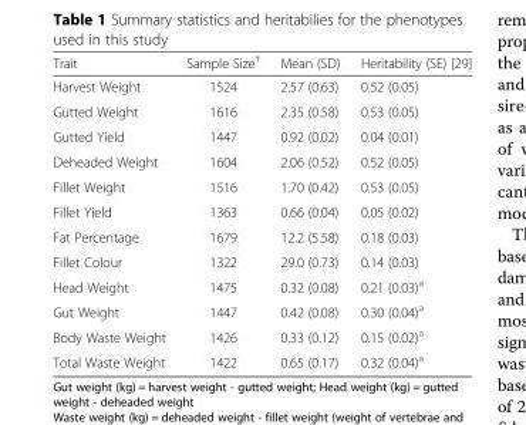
<table><thead><tr><td>Trait</td><td>Sample Size<sup>†</sup></td><td>Mean (SD)</td><td>Heritability (SE) [29]</td></tr></thead><tbody><tr><td>Harvest Weight</td><td>1524</td><td>2.57 (0.63)</td><td>0.52 (0.05)</td></tr><tr><td>Gutted Weight</td><td>1616</td><td>2.35 (0.58)</td><td>0.53 (0.05)</td></tr><tr><td>Gutted Yield</td><td>1447</td><td>0.92 (0.02)</td><td>0.04 (0.01)</td></tr><tr><td>Deheaded Weight</td><td>1604</td><td>2.06 (0.52)</td><td>0.52 (0.05)</td></tr><tr><td>Fillet Weight</td><td>1516</td><td>1.70 (0.42)</td><td>0.53 (0.05)</td></tr><tr><td>Fillet Yield</td><td>1363</td><td>0.66 (0.04)</td><td>0.05 (0.02)</td></tr><tr><td>Fat Percentage</td><td>1679</td><td>12.2 (5.58)</td><td>0.18 (0.03)</td></tr><tr><td>Fillet Colour</td><td>1322</td><td>29.0 (0.73)</td><td>0.14 (0.03)</td></tr><tr><td>Head Weight</td><td>1475</td><td>0.32 (0.08)</td><td>0.21 (0.03)<sup>a</sup></td></tr><tr><td>Gut Weight</td><td>1447</td><td>0.42 (0.08)</td><td>0.30 (0.04)<sup>a</sup></td></tr><tr><td>Body Waste Weight</td><td>1426</td><td>0.33 (0.12)</td><td>0.15 (0.02)<sup>a</sup></td></tr><tr><td>Total Waste Weight</td><td>1422</td><td>0.65 (0.17)</td><td>0.32 (0.04)<sup>a</sup></td></tr></tbody></table>